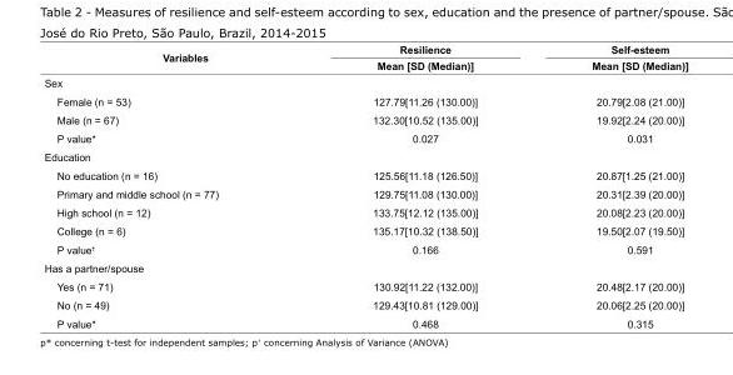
<table><thead><tr><td rowspan="2">Variables</td><td rowspan="2">Resilience Mean [SD (Median)]</td><td rowspan="2">Self-esteem Mean [SD (Median)]</td></tr><tr></tr></thead><tbody><tr><td colspan="3">Sex</td></tr><tr><td>Female (n = 53)</td><td>127.79[11.26 (130.00)]</td><td>20.79[2.08 (21.00)]</td></tr><tr><td>Male (n = 67)</td><td>132.30[10.52 (135.00)]</td><td>19.92[2.24 (20.00)]</td></tr><tr><td>P value*</td><td>0.027</td><td>0.031</td></tr><tr><td colspan="3">Education</td></tr><tr><td>No education (n = 16)</td><td>125.56[11.18 (126.50)]</td><td>20.87[1.25 (21.00)]</td></tr><tr><td>Primary and middle school (n = 77)</td><td>129.75[11.08 (130.00)]</td><td>20.31[2.39 (20.00)]</td></tr><tr><td>High school (n = 12)</td><td>133.75[12.12 (135.00)]</td><td>20.08[2.23 (20.00)]</td></tr><tr><td>College (n = 6)</td><td>135.17[10.32 (138.50)]</td><td>19.50[2.07 (19.50)]</td></tr><tr><td>P value<sup>†</sup></td><td>0.166</td><td>0.591</td></tr><tr><td colspan="3">Has a partner/spouse</td></tr><tr><td>Yes (n = 71)</td><td>130.92[11.22 (132.00)]</td><td>20.48[2.17 (20.00)]</td></tr><tr><td>No (n = 49)</td><td>129.43[10.81 (129.00)]</td><td>20.06[2.25 (20.00)]</td></tr><tr><td>P value*</td><td>0.468</td><td>0.315</td></tr></tbody></table>